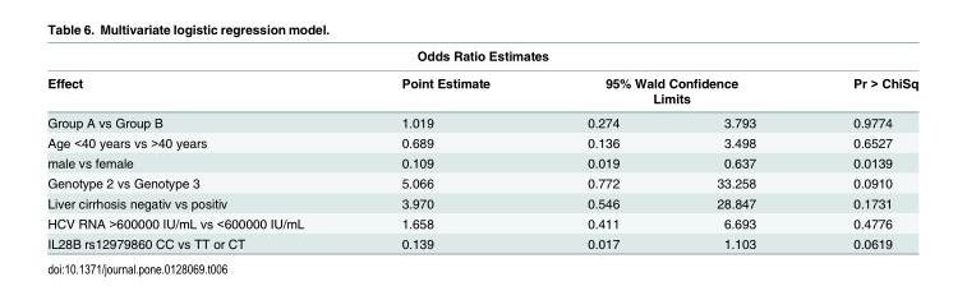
<table><thead><tr><td colspan="5">Odds Ratio Estimates</td></tr><tr><td rowspan="2">Effect Group A vs Group B</td><td rowspan="2">Point Estimate 1.019</td><td colspan="2">95% Wald Confidence Limits</td><td rowspan="2">Pr &gt; ChiSq 0.9774</td></tr><tr><td>0.274</td><td>3.793</td></tr></thead><tbody><tr><td>Age &lt;40 years vs &gt;40 years</td><td>0.689</td><td>0.136</td><td>3.498</td><td>0.6527</td></tr><tr><td>male vs female</td><td>0.109</td><td>0.019</td><td>0.637</td><td>0.0139</td></tr><tr><td>Genotype 2 vs Genotype 3</td><td>5.066</td><td>0.772</td><td>33.258</td><td>0.0910</td></tr><tr><td>Liver cirrhosis negativ vs positiv</td><td>3.970</td><td>0.546</td><td>28.847</td><td>0.1731</td></tr><tr><td>HCV RNA &gt;600000 IU/mL vs &lt;600000 IU/mL</td><td>1.658</td><td>0.411</td><td>6.693</td><td>0.4776</td></tr><tr><td>IL28B rs12979860 CC vs TT or CT</td><td>0.139</td><td>0.017</td><td>1.103</td><td>0.0619</td></tr></tbody></table>